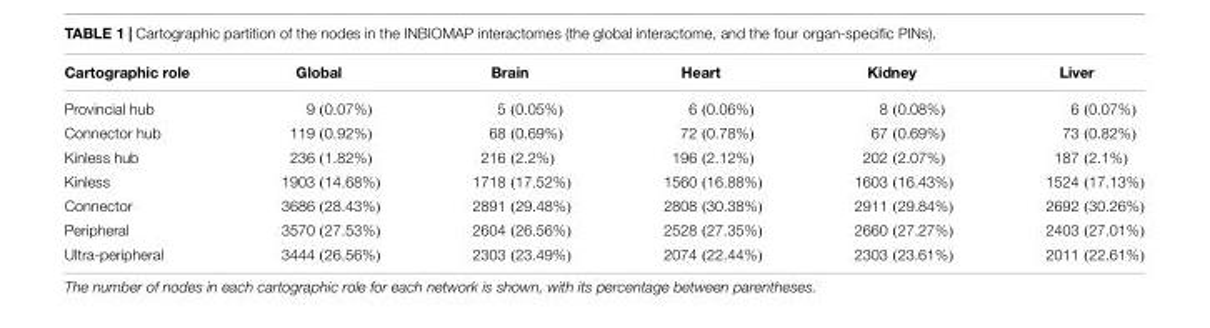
<table><thead><tr><td>Cartographic role</td><td>Global</td><td>Brain</td><td>Heart</td><td>Kidney</td><td>Liver</td></tr></thead><tbody><tr><td>Provincial hub</td><td>9 (0.07%)</td><td>5 (0.05%)</td><td>6 (0.06%)</td><td>8 (0.08%)</td><td>6 (0.07%)</td></tr><tr><td>Connector hub</td><td>119 (0.92%)</td><td>68 (0.69%)</td><td>72 (0.78%)</td><td>67 (0.69%)</td><td>73 (0.82%)</td></tr><tr><td>Kinless hub</td><td>236 (1.82%)</td><td>216 (2.2%)</td><td>196 (2.12%)</td><td>202 (2.07%)</td><td>187 (2.1%)</td></tr><tr><td>Kinless</td><td>1903 (14.68%)</td><td>1718 (17.52%)</td><td>1560 (16.88%)</td><td>1603 (16.43%)</td><td>1524 (17.13%)</td></tr><tr><td>Connector</td><td>3686 (28.43%)</td><td>2891 (29.48%)</td><td>2808 (30.38%)</td><td>2911 (29.84%)</td><td>2692 (30.26%)</td></tr><tr><td>Peripheral</td><td>3570 (27.53%)</td><td>2604 (26.56%)</td><td>2528 (27.35%)</td><td>2660 (27.27%)</td><td>2403 (27.01%)</td></tr><tr><td>Ultra-peripheral</td><td>3444 (26.56%)</td><td>2303 (23.49%)</td><td>2074 (22.44%)</td><td>2303 (23.61%)</td><td>2011 (22.61%)</td></tr></tbody></table>